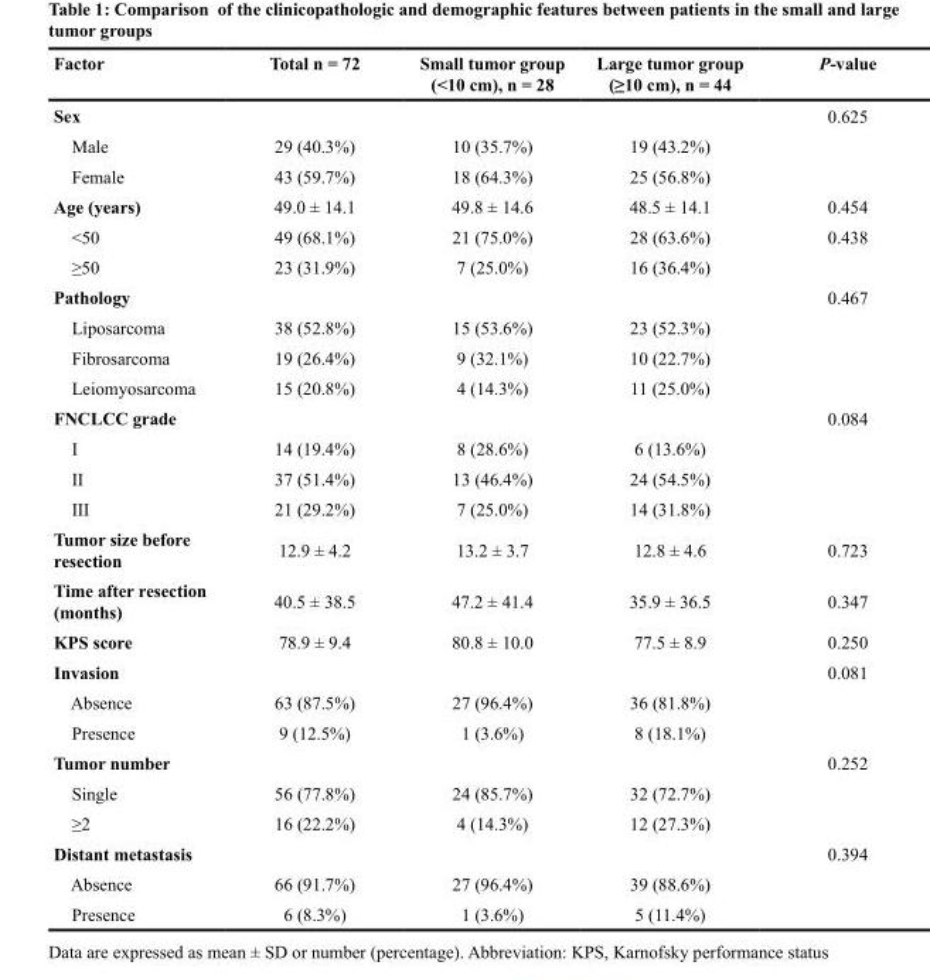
<table><thead><tr><td>Factor</td><td>Total n = 72</td><td>Small tumor group (&lt;10 cm), n = 28</td><td>Large tumor group (≥10 cm), n = 44</td><td>P-value</td></tr></thead><tbody><tr><td>Sex</td><td></td><td></td><td></td><td>0.625</td></tr><tr><td>Male</td><td>29 (40.3%)</td><td>10 (35.7%)</td><td>19 (43.2%)</td><td></td></tr><tr><td>Female</td><td>43 (59.7%)</td><td>18 (64.3%)</td><td>25 (56.8%)</td><td></td></tr><tr><td>Age (years)</td><td>49.0 ± 14.1</td><td>49.8 ± 14.6</td><td>48.5 ± 14.1</td><td>0.454</td></tr><tr><td>&lt;50</td><td>49 (68.1%)</td><td>21 (75.0%)</td><td>28 (63.6%)</td><td>0.438</td></tr><tr><td>≥50</td><td>23 (31.9%)</td><td>7 (25.0%)</td><td>16 (36.4%)</td><td></td></tr><tr><td>Pathology</td><td></td><td></td><td></td><td>0.467</td></tr><tr><td>Liposarcoma</td><td>38 (52.8%)</td><td>15 (53.6%)</td><td>23 (52.3%)</td><td></td></tr><tr><td>Fibrosarcoma</td><td>19 (26.4%)</td><td>9 (32.1%)</td><td>10 (22.7%)</td><td></td></tr><tr><td>Leiomyosarcoma</td><td>15 (20.8%)</td><td>4 (14.3%)</td><td>11 (25.0%)</td><td></td></tr><tr><td>FNCLCC grade</td><td></td><td></td><td></td><td>0.084</td></tr><tr><td>I</td><td>14 (19.4%)</td><td>8 (28.6%)</td><td>6 (13.6%)</td><td></td></tr><tr><td>II</td><td>37 (51.4%)</td><td>13 (46.4%)</td><td>24 (54.5%)</td><td></td></tr><tr><td>III</td><td>21 (29.2%)</td><td>7 (25.0%)</td><td>14 (31.8%)</td><td></td></tr><tr><td>Tumor size before resection</td><td>12.9 ± 4.2</td><td>13.2 ± 3.7</td><td>12.8 ± 4.6</td><td>0.723</td></tr><tr><td>Time after resection (months)</td><td>40.5 ± 38.5</td><td>47.2 ± 41.4</td><td>35.9 ± 36.5</td><td>0.347</td></tr><tr><td>KPS score</td><td>78.9 ± 9.4</td><td>80.8 ± 10.0</td><td>77.5 ± 8.9</td><td>0.250</td></tr><tr><td>Invasion</td><td></td><td></td><td></td><td>0.081</td></tr><tr><td>Absence</td><td>63 (87.5%)</td><td>27 (96.4%)</td><td>36 (81.8%)</td><td></td></tr><tr><td>Presence</td><td>9 (12.5%)</td><td>1 (3.6%)</td><td>8 (18.1%)</td><td></td></tr><tr><td>Tumor number</td><td></td><td></td><td></td><td>0.252</td></tr><tr><td>Single</td><td>56 (77.8%)</td><td>24 (85.7%)</td><td>32 (72.7%)</td><td></td></tr><tr><td>≥2</td><td>16 (22.2%)</td><td>4 (14.3%)</td><td>12 (27.3%)</td><td></td></tr><tr><td>Distant metastasis</td><td></td><td></td><td></td><td>0.394</td></tr><tr><td>Absence</td><td>66 (91.7%)</td><td>27 (96.4%)</td><td>39 (88.6%)</td><td></td></tr><tr><td>Presence</td><td>6 (8.3%)</td><td>1 (3.6%)</td><td>5 (11.4%)</td><td></td></tr></tbody></table>